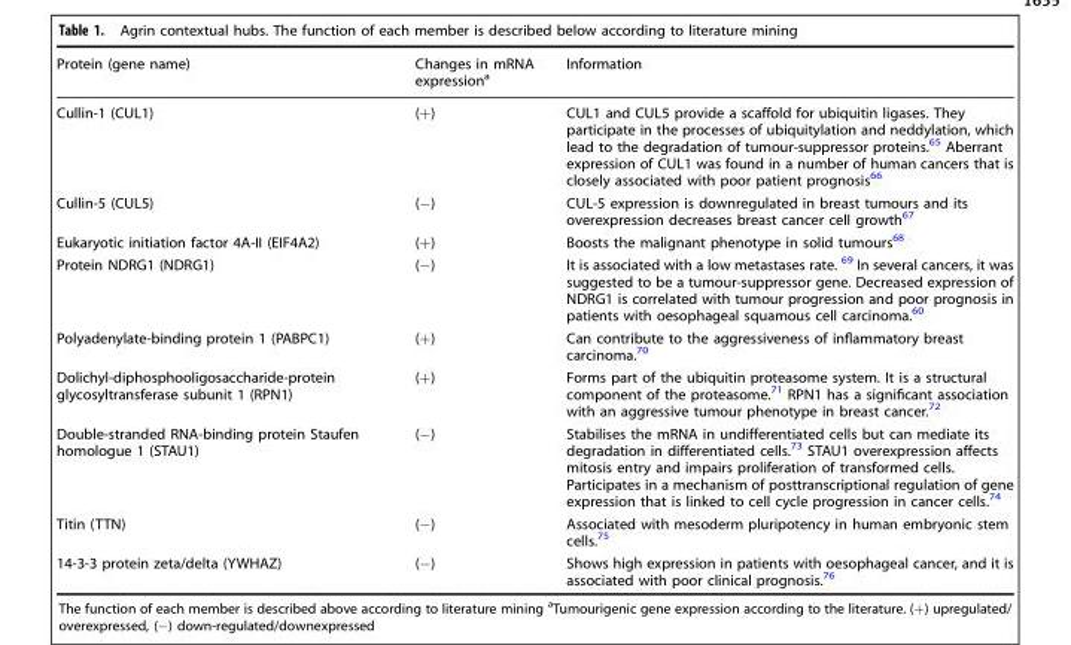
<table><thead><tr><td>Protein (gene name)</td><td>Changes in mRNA expression<sup>a</sup></td><td>Information</td></tr></thead><tbody><tr><td>Cullin-1 (CUL1)</td><td>(+)</td><td>CUL1 and CUL5 provide a scaffold for ubiquitin ligases. They participate in the processes of ubiquitylation and neddylation, which lead to the degradation of tumour-suppressor proteins.<sup>65</sup> Aberrant expression of CUL1 was found in a number of human cancers that is closely associated with poor patient prognosis<sup>66</sup></td></tr><tr><td>Cullin-5 (CUL5)</td><td>(−)</td><td>CUL-5 expression is downregulated in breast tumours and its overexpression decreases breast cancer cell growth<sup>67</sup></td></tr><tr><td>Eukaryotic initiation factor 4A-II (EIF4A2)</td><td>(+)</td><td>Boosts the malignant phenotype in solid tumours<sup>68</sup></td></tr><tr><td>Protein NDRG1 (NDRG1)</td><td>(−)</td><td>It is associated with a low metastases rate. <sup>69</sup> In several cancers, it was suggested to be a tumour-suppressor gene. Decreased expression of NDRG1 is correlated with tumour progression and poor prognosis in patients with oesophageal squamous cell carcinoma.<sup>60</sup></td></tr><tr><td>Polyadenylate-binding protein 1 (PABPC1)</td><td>(+)</td><td>Can contribute to the aggressiveness of inflammatory breast carcinoma.<sup>70</sup></td></tr><tr><td>Dolichyl-diphosphooligosaccharide-protein glycosyltransferase subunit 1 (RPN1)</td><td>(+)</td><td>Forms part of the ubiquitin proteasome system. It is a structural component of the proteasome.<sup>71</sup> RPN1 has a significant association with an aggressive tumour phenotype in breast cancer.<sup>72</sup></td></tr><tr><td>Double-stranded RNA-binding protein Staufen homologue 1 (STAU1)</td><td>(−)</td><td>Stabilises the mRNA in undifferentiated cells but can mediate its degradation in differentiated cells.<sup>73</sup> STAU1 overexpression affects mitosis entry and impairs proliferation of transformed cells. Participates in a mechanism of posttranscriptional regulation of gene expression that is linked to cell cycle progression in cancer cells.<sup>74</sup></td></tr><tr><td>Titin (TTN)</td><td>(−)</td><td>Associated with mesoderm pluripotency in human embryonic stem cells.<sup>75</sup></td></tr><tr><td>14-3-3 protein zeta/delta (YWHAZ)</td><td>(−)</td><td>Shows high expression in patients with oesophageal cancer, and it is associated with poor clinical prognosis.<sup>76</sup></td></tr></tbody></table>